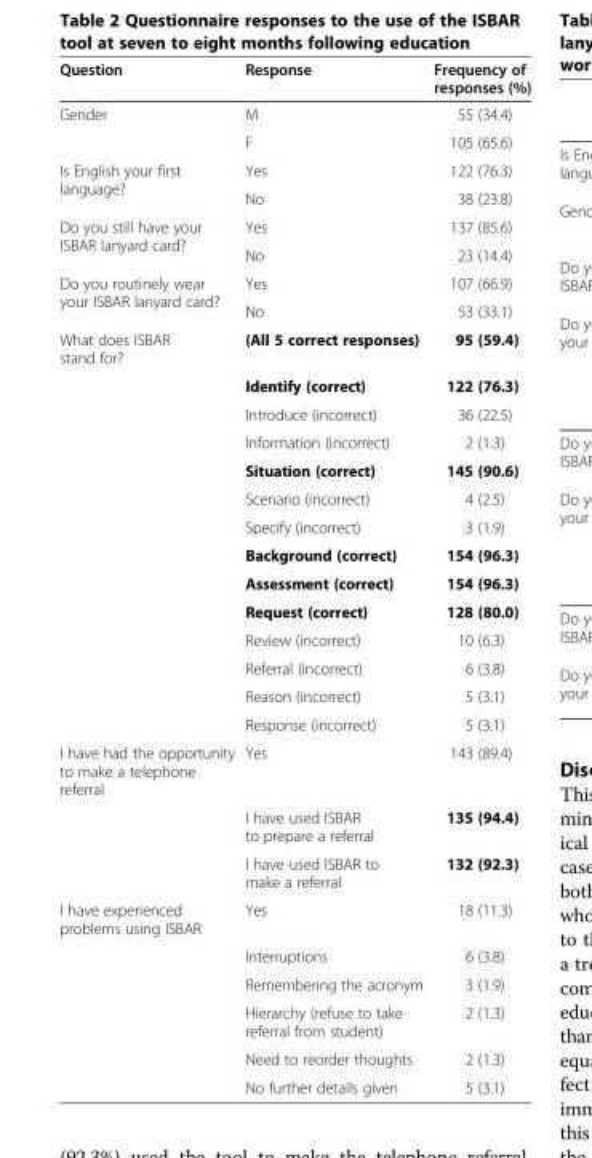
<table><thead><tr><td>Question</td><td>Response</td><td>Frequency of responses (%)</td></tr></thead><tbody><tr><td rowspan="2">Gender</td><td>M</td><td>55 (34.4)</td></tr><tr><td>F</td><td>105 (65.6)</td></tr><tr><td rowspan="2">Is English your first language?</td><td>Yes</td><td>122 (76.3)</td></tr><tr><td>No</td><td>38 (23.8)</td></tr><tr><td rowspan="2">Do you still have your ISBAR lanyard card?</td><td>Yes</td><td>137 (85.6)</td></tr><tr><td>No</td><td>23 (14.4)</td></tr><tr><td rowspan="2">Do you routinely wear your ISBAR lanyard card?</td><td>Yes</td><td>107 (66.9)</td></tr><tr><td>No</td><td>53 (33.1)</td></tr><tr><td rowspan="14">What does ISBAR stand for?</td><td>(All 5 correct responses)</td><td>95 (59.4)</td></tr><tr><td>Identify (correct)</td><td>122 (76.3)</td></tr><tr><td>Introduce (incorrect)</td><td>36 (22.5)</td></tr><tr><td>Information (incorrect)</td><td>2 (1.3)</td></tr><tr><td>Situation (correct)</td><td>145 (90.6)</td></tr><tr><td>Scenario (incorrect)</td><td>4 (2.5)</td></tr><tr><td>Specify (incorrect)</td><td>3 (1.9)</td></tr><tr><td>Background (correct)</td><td>154 (96.3)</td></tr><tr><td>Assessment (correct)</td><td>154 (96.3)</td></tr><tr><td>Request (correct)</td><td>128 (80.0)</td></tr><tr><td>Review (incorrect)</td><td>10 (6.3)</td></tr><tr><td>Referral (incorrect)</td><td>6 (3.8)</td></tr><tr><td>Reason (incorrect)</td><td>5 (3.1)</td></tr><tr><td>Response (incorrect)</td><td>5 (3.1)</td></tr><tr><td rowspan="3">I have had the opportunity to make a telephone referral</td><td>Yes</td><td>143 (89.4)</td></tr><tr><td>I have used ISBAR to prepare a referral</td><td>135 (94.4)</td></tr><tr><td>I have used ISBAR to make a referral</td><td>132 (92.3)</td></tr><tr><td rowspan="6">I have experienced problems using ISBAR</td><td>Yes</td><td>18 (11.3)</td></tr><tr><td>Interruptions</td><td>6 (3.8)</td></tr><tr><td>Remembering the acronym</td><td>3 (1.9)</td></tr><tr><td>Hierarchy (refuse to take referral from student)</td><td>2 (1.3)</td></tr><tr><td>Need to reorder thoughts</td><td>2 (1.3)</td></tr><tr><td>No further details given</td><td>5 (3.1)</td></tr></tbody></table>